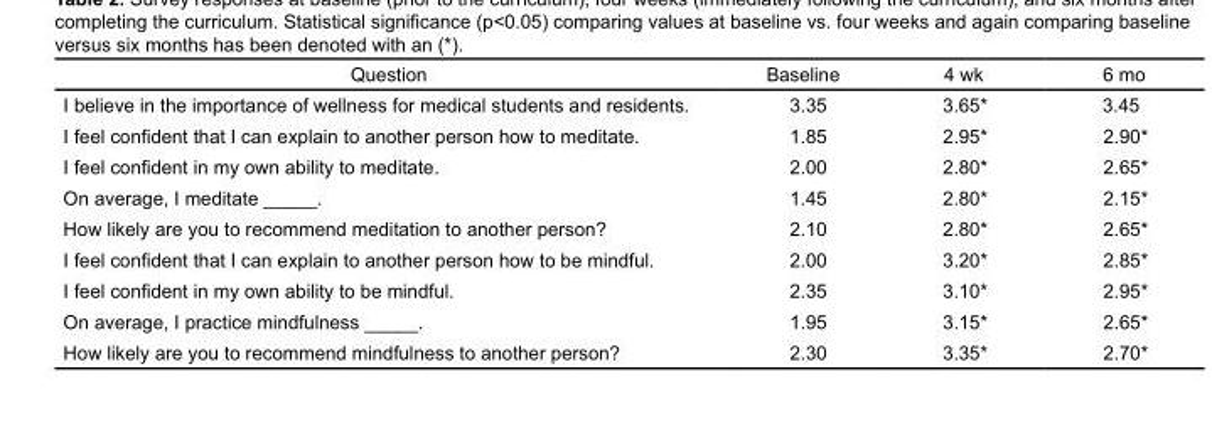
<table><thead><tr><td>Question</td><td>Baseline</td><td>4 wk</td><td>6 mo</td></tr></thead><tbody><tr><td>I believe in the importance of wellness for medical students and residents.</td><td>3.35</td><td>3.65*</td><td>3.45</td></tr><tr><td>I feel confident that I can explain to another person how to meditate.</td><td>1.85</td><td>2.95*</td><td>2.90*</td></tr><tr><td>I feel confident in my own ability to meditate.</td><td>2.00</td><td>2.80*</td><td>2.65*</td></tr><tr><td>On average, I meditate _____.</td><td>1.45</td><td>2.80*</td><td>2.15*</td></tr><tr><td>How likely are you to recommend meditation to another person?</td><td>2.10</td><td>2.80*</td><td>2.65*</td></tr><tr><td>I feel confident that I can explain to another person how to be mindful.</td><td>2.00</td><td>3.20*</td><td>2.85*</td></tr><tr><td>I feel confident in my own ability to be mindful.</td><td>2.35</td><td>3.10*</td><td>2.95*</td></tr><tr><td>On average, I practice mindfulness _____.</td><td>1.95</td><td>3.15*</td><td>2.65*</td></tr><tr><td>How likely are you to recommend mindfulness to another person?</td><td>2.30</td><td>3.35*</td><td>2.70*</td></tr></tbody></table>